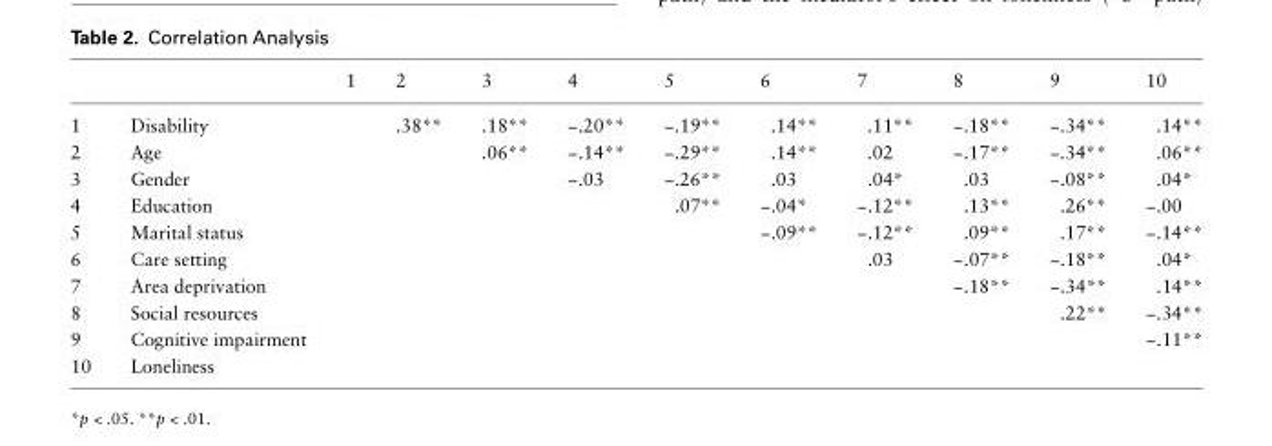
<table><thead><tr><td></td><td></td><td>1</td><td>2</td><td>3</td><td>4</td><td>5</td><td>6</td><td>7</td><td>8</td><td>9</td><td>10</td></tr></thead><tbody><tr><td>1</td><td>Disability</td><td></td><td>.38**</td><td>.18**</td><td>−.20**</td><td>−.19**</td><td>.14**</td><td>.11**</td><td>−.18**</td><td>−.34**</td><td>.14**</td></tr><tr><td>2</td><td>Age</td><td></td><td></td><td>.06**</td><td>−.14**</td><td>−.29**</td><td>.14**</td><td>.02</td><td>−.17**</td><td>−.34**</td><td>.06**</td></tr><tr><td>3</td><td>Gender</td><td></td><td></td><td></td><td>−.03</td><td>−.26**</td><td>.03</td><td>.04*</td><td>.03</td><td>−.08**</td><td>.04*</td></tr><tr><td>4</td><td>Education</td><td></td><td></td><td></td><td></td><td>.07**</td><td>−.04*</td><td>−.12**</td><td>.13**</td><td>.26**</td><td>−.00</td></tr><tr><td>5</td><td>Marital status</td><td></td><td></td><td></td><td></td><td></td><td>−.09**</td><td>−.12**</td><td>.09**</td><td>.17**</td><td>−.14**</td></tr><tr><td>6</td><td>Care setting</td><td></td><td></td><td></td><td></td><td></td><td></td><td>.03</td><td>−.07**</td><td>−.18**</td><td>.04*</td></tr><tr><td>7</td><td>Area deprivation</td><td></td><td></td><td></td><td></td><td></td><td></td><td></td><td>−.18**</td><td>−.34**</td><td>.14**</td></tr><tr><td>8</td><td>Social resources</td><td></td><td></td><td></td><td></td><td></td><td></td><td></td><td></td><td>.22**</td><td>−.34**</td></tr><tr><td>9</td><td>Cognitive impairment</td><td></td><td></td><td></td><td></td><td></td><td></td><td></td><td></td><td></td><td>−.11**</td></tr><tr><td>10</td><td>Loneliness</td><td></td><td></td><td></td><td></td><td></td><td></td><td></td><td></td><td></td><td></td></tr></tbody></table>